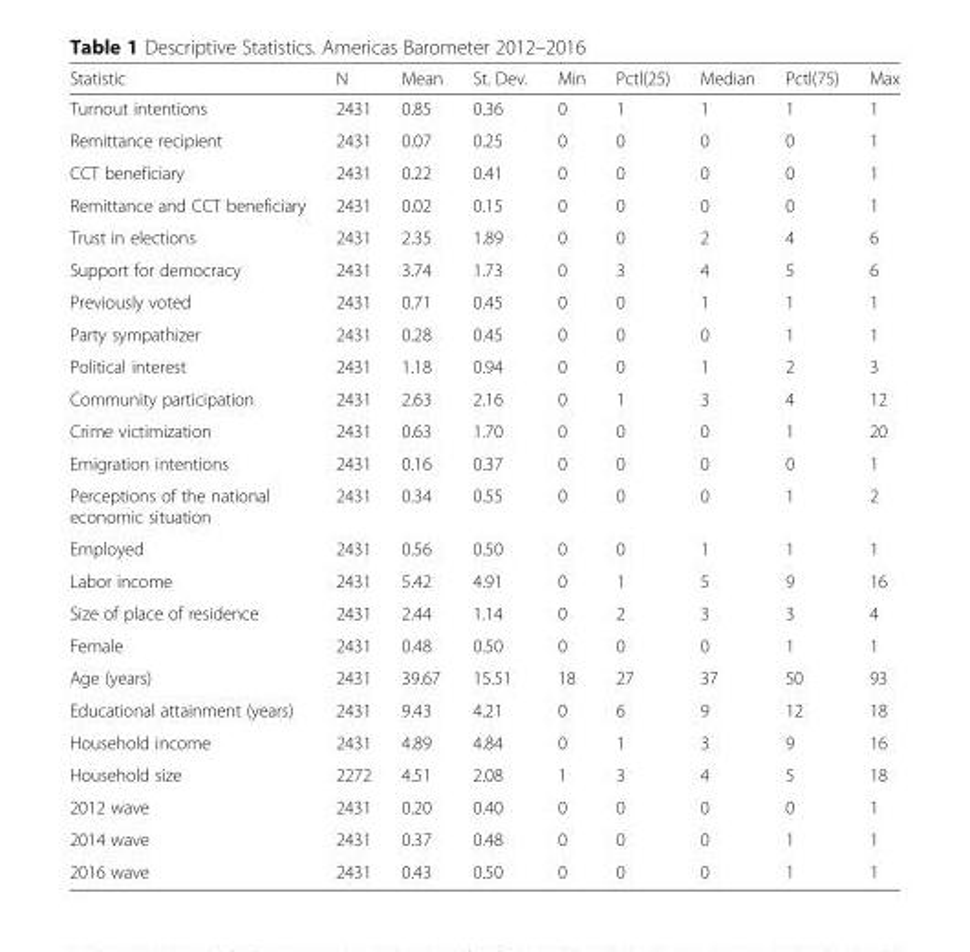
<table><thead><tr><td>Statistic</td><td>N</td><td>Mean</td><td>St. Dev.</td><td>Min</td><td>Pctl(25)</td><td>Median</td><td>Pctl(75)</td><td>Max</td></tr></thead><tbody><tr><td>Turnout intentions</td><td>2431</td><td>0.85</td><td>0.36</td><td>0</td><td>1</td><td>1</td><td>1</td><td>1</td></tr><tr><td>Remittance recipient</td><td>2431</td><td>0.07</td><td>0.25</td><td>0</td><td>0</td><td>0</td><td>0</td><td>1</td></tr><tr><td>CCT beneficiary</td><td>2431</td><td>0.22</td><td>0.41</td><td>0</td><td>0</td><td>0</td><td>0</td><td>1</td></tr><tr><td>Remittance and CCT beneficiary</td><td>2431</td><td>0.02</td><td>0.15</td><td>0</td><td>0</td><td>0</td><td>0</td><td>1</td></tr><tr><td>Trust in elections</td><td>2431</td><td>2.35</td><td>1.89</td><td>0</td><td>0</td><td>2</td><td>4</td><td>6</td></tr><tr><td>Support for democracy</td><td>2431</td><td>3.74</td><td>1.73</td><td>0</td><td>3</td><td>4</td><td>5</td><td>6</td></tr><tr><td>Previously voted</td><td>2431</td><td>0.71</td><td>0.45</td><td>0</td><td>0</td><td>1</td><td>1</td><td>1</td></tr><tr><td>Party sympathizer</td><td>2431</td><td>0.28</td><td>0.45</td><td>0</td><td>0</td><td>0</td><td>1</td><td>1</td></tr><tr><td>Political interest</td><td>2431</td><td>1.18</td><td>0.94</td><td>0</td><td>0</td><td>1</td><td>2</td><td>3</td></tr><tr><td>Community participation</td><td>2431</td><td>2.63</td><td>2.16</td><td>0</td><td>1</td><td>3</td><td>4</td><td>12</td></tr><tr><td>Crime victimization</td><td>2431</td><td>0.63</td><td>1.70</td><td>0</td><td>0</td><td>0</td><td>1</td><td>20</td></tr><tr><td>Emigration intentions</td><td>2431</td><td>0.16</td><td>0.37</td><td>0</td><td>0</td><td>0</td><td>0</td><td>1</td></tr><tr><td>Perceptions of the national economic situation</td><td>2431</td><td>0.34</td><td>0.55</td><td>0</td><td>0</td><td>0</td><td>1</td><td>2</td></tr><tr><td>Employed</td><td>2431</td><td>0.56</td><td>0.50</td><td>0</td><td>0</td><td>1</td><td>1</td><td>1</td></tr><tr><td>Labor income</td><td>2431</td><td>5.42</td><td>4.91</td><td>0</td><td>1</td><td>5</td><td>9</td><td>16</td></tr><tr><td>Size of place of residence</td><td>2431</td><td>2.44</td><td>1.14</td><td>0</td><td>2</td><td>3</td><td>3</td><td>4</td></tr><tr><td>Female</td><td>2431</td><td>0.48</td><td>0.50</td><td>0</td><td>0</td><td>0</td><td>1</td><td>1</td></tr><tr><td>Age (years)</td><td>2431</td><td>39.67</td><td>15.51</td><td>18</td><td>27</td><td>37</td><td>50</td><td>93</td></tr><tr><td>Educational attainment (years)</td><td>2431</td><td>9.43</td><td>4.21</td><td>0</td><td>6</td><td>9</td><td>12</td><td>18</td></tr><tr><td>Household income</td><td>2431</td><td>4.89</td><td>4.84</td><td>0</td><td>1</td><td>3</td><td>9</td><td>16</td></tr><tr><td>Household size</td><td>2272</td><td>4.51</td><td>2.08</td><td>1</td><td>3</td><td>4</td><td>5</td><td>18</td></tr><tr><td>2012 wave</td><td>2431</td><td>0.20</td><td>0.40</td><td>0</td><td>0</td><td>0</td><td>0</td><td>1</td></tr><tr><td>2014 wave</td><td>2431</td><td>0.37</td><td>0.48</td><td>0</td><td>0</td><td>0</td><td>1</td><td>1</td></tr><tr><td>2016 wave</td><td>2431</td><td>0.43</td><td>0.50</td><td>0</td><td>0</td><td>0</td><td>1</td><td>1</td></tr></tbody></table>